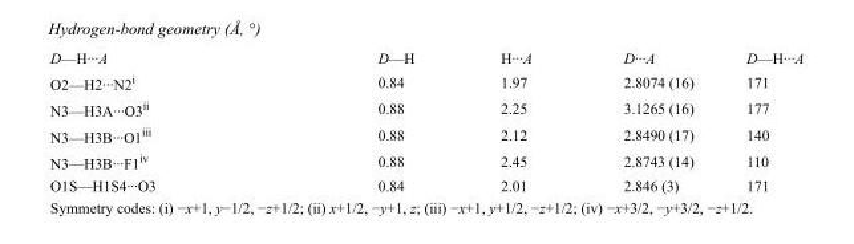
<table><tbody><tr><td>D—H···A</td><td>D—H</td><td>H···A</td><td>D···A</td><td>D—H···A</td></tr><tr><td>O2—H2···N2<sup>i</sup></td><td>0.84</td><td>1.97</td><td>2.8074 (16)</td><td>171</td></tr><tr><td>N3—H3A···O3<sup>ii</sup></td><td>0.88</td><td>2.25</td><td>3.1265 (16)</td><td>177</td></tr><tr><td>N3—H3B···O1<sup>iii</sup></td><td>0.88</td><td>2.12</td><td>2.8490 (17)</td><td>140</td></tr><tr><td>N3—H3B···F1<sup>iv</sup></td><td>0.88</td><td>2.45</td><td>2.8743 (14)</td><td>110</td></tr><tr><td>O1S—H1S4···O3</td><td>0.84</td><td>2.01</td><td>2.846 (3)</td><td>171</td></tr></tbody></table>